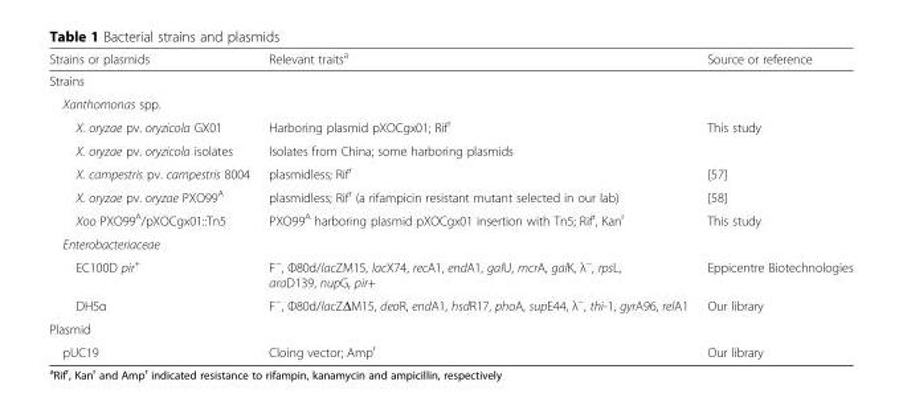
<table><thead><tr><td>Strains or plasmids</td><td>Relevant traits<sup>a</sup></td><td>Source or reference</td></tr></thead><tbody><tr><td colspan="3">Strains</td></tr><tr><td colspan="3">Xanthomonas spp.</td></tr><tr><td>X. oryzae pv. oryzicola GX01</td><td>Harboring plasmid pXOCgx01; Rif<sup>r</sup></td><td>This study</td></tr><tr><td>X. oryzae pv. oryzicola isolates</td><td>Isolates from China; some harboring plasmids</td><td></td></tr><tr><td>X. campestris pv. campestris 8004</td><td>plasmidless; Rif<sup>r</sup></td><td>[57]</td></tr><tr><td>X. oryzae pv. oryzae PXO99<sup>A</sup></td><td>plasmidless; Rif<sup>r</sup> (a rifampicin resistant mutant selected in our lab)</td><td>[58]</td></tr><tr><td>Xoo PXO99<sup>A</sup>/pXOCgx01::Tn5</td><td>PXO99<sup>A</sup> harboring plasmid pXOCgx01 insertion with Tn5; Rif<sup>r</sup>, Kan<sup>r</sup></td><td>This study</td></tr><tr><td colspan="3">Enterobacteriaceae</td></tr><tr><td>EC100D pir<sup>+</sup></td><td>F<sup>−</sup>, Ф80d/lacZM15, lacX74, recA1, endA1, galU, mcrA, galK, λ<sup>−</sup>, rpsL, araD139, nupG, pir+</td><td>Eppicentre Biotechnologies</td></tr><tr><td>DH5α</td><td>F<sup>−</sup>, Ф80d/lacZΔM15, deoR, endA1, hsdR17, phoA, supE44, λ<sup>−</sup>, thi-1, gyrA96, relA1</td><td>Our library</td></tr><tr><td colspan="3">Plasmid</td></tr><tr><td>pUC19</td><td>Cloing vector; Amp<sup>r</sup></td><td>Our library</td></tr></tbody></table>